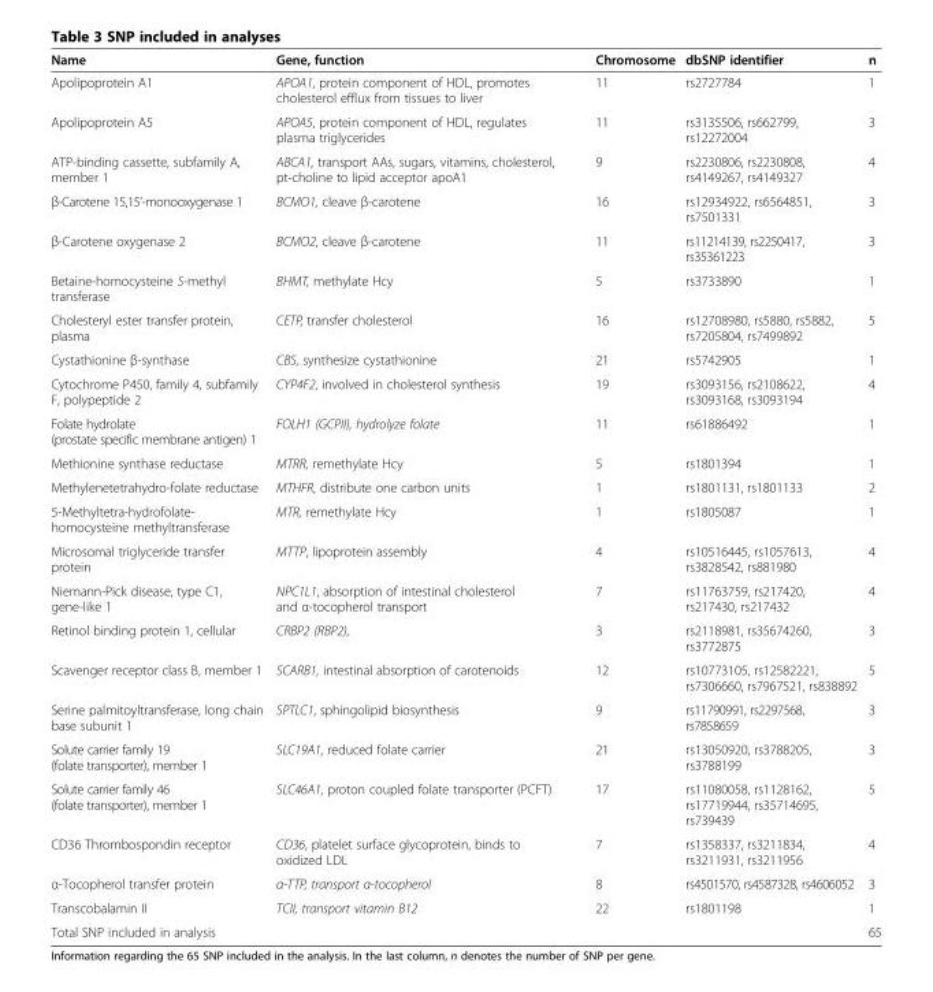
<table><thead><tr><td>Name</td><td>Gene, function</td><td>Chromosome</td><td>dbSNP identifier</td><td>n</td></tr></thead><tbody><tr><td>Apolipoprotein A1</td><td>APOA1, protein component of HDL, promotes cholesterol efflux from tissues to liver</td><td>11</td><td>rs2727784</td><td>1</td></tr><tr><td>Apolipoprotein A5</td><td>APOA5, protein component of HDL, regulates plasma triglycerides</td><td>11</td><td>rs3135506, rs662799, rs12272004</td><td>3</td></tr><tr><td>ATP-binding cassette, subfamily A, member 1</td><td>ABCA1, transport AAs, sugars, vitamins, cholesterol, pt-choline to lipid acceptor apoA1</td><td>9</td><td>rs2230806, rs2230808, rs4149267, rs4149327</td><td>4</td></tr><tr><td>β-Carotene 15,15’-monooxygenase 1</td><td>BCMO1, cleave β-carotene</td><td>16</td><td>rs12934922, rs6564851, rs7501331</td><td>3</td></tr><tr><td>β-Carotene oxygenase 2</td><td>BCMO2, cleave β-carotene</td><td>11</td><td>rs11214139, rs2250417, rs35361223</td><td>3</td></tr><tr><td>Betaine-homocysteine S-methyl transferase</td><td>BHMT, methylate Hcy</td><td>5</td><td>rs3733890</td><td>1</td></tr><tr><td>Cholesteryl ester transfer protein, plasma</td><td>CETP, transfer cholesterol</td><td>16</td><td>rs12708980, rs5880, rs5882, rs7205804, rs7499892</td><td>5</td></tr><tr><td>Cystathionine β-synthase</td><td>CBS, synthesize cystathionine</td><td>21</td><td>rs5742905</td><td>1</td></tr><tr><td>Cytochrome P450, family 4, subfamily F, polypeptide 2</td><td>CYP4F2, involved in cholesterol synthesis</td><td>19</td><td>rs3093156, rs2108622, rs3093168, rs3093194</td><td>4</td></tr><tr><td>Folate hydrolate (prostate specific membrane antigen) 1</td><td>FOLH1 (GCPII), hydrolyze folate</td><td>11</td><td>rs61886492</td><td>1</td></tr><tr><td>Methionine synthase reductase</td><td>MTRR, remethylate Hcy</td><td>5</td><td>rs1801394</td><td>1</td></tr><tr><td>Methylenetetrahydro-folate reductase</td><td>MTHFR, distribute one carbon units</td><td>1</td><td>rs1801131, rs1801133</td><td>2</td></tr><tr><td>5-Methyltetra-hydrofolate- homocysteine methyltransferase</td><td>MTR, remethylate Hcy</td><td>1</td><td>rs1805087</td><td>1</td></tr><tr><td>Microsomal triglyceride transfer protein</td><td>MTTP, lipoprotein assembly</td><td>4</td><td>rs10516445, rs1057613, rs3828542, rs881980</td><td>4</td></tr><tr><td>Niemann-Pick disease, type C1, gene-like 1</td><td>NPC1L1, absorption of intestinal cholesterol and α-tocopherol transport</td><td>7</td><td>rs11763759, rs217420, rs217430, rs217432</td><td>4</td></tr><tr><td>Retinol binding protein 1, cellular</td><td>CRBP2 (RBP2),</td><td>3</td><td>rs2118981, rs35674260, rs3772875</td><td>3</td></tr><tr><td>Scavenger receptor class B, member 1</td><td>SCARB1, intestinal absorption of carotenoids</td><td>12</td><td>rs10773105, rs12582221, rs7306660, rs7967521, rs838892</td><td>5</td></tr><tr><td>Serine palmitoyltransferase, long chain base subunit 1</td><td>SPTLC1, sphingolipid biosynthesis</td><td>9</td><td>rs11790991, rs2297568, rs7858659</td><td>3</td></tr><tr><td>Solute carrier family 19 (folate transporter), member 1</td><td>SLC19A1, reduced folate carrier</td><td>21</td><td>rs13050920, rs3788205, rs3788199</td><td>3</td></tr><tr><td>Solute carrier family 46 (folate transporter), member 1</td><td>SLC46A1, proton coupled folate transporter (PCFT)</td><td>17</td><td>rs11080058, rs1128162, rs17719944, rs35714695, rs739439</td><td>5</td></tr><tr><td>CD36 Thrombospondin receptor</td><td>CD36, platelet surface glycoprotein, binds to oxidized LDL</td><td>7</td><td>rs1358337, rs3211834, rs3211931, rs3211956</td><td>4</td></tr><tr><td>α-Tocopherol transfer protein</td><td>α-TTP, transport α-tocopherol</td><td>8</td><td>rs4501570, rs4587328, rs4606052</td><td>3</td></tr><tr><td>Transcobalamin II</td><td>TCII, transport vitamin B12</td><td>22</td><td>rs1801198</td><td>1</td></tr><tr><td colspan="4">Total SNP included in analysis</td><td>65</td></tr></tbody></table>